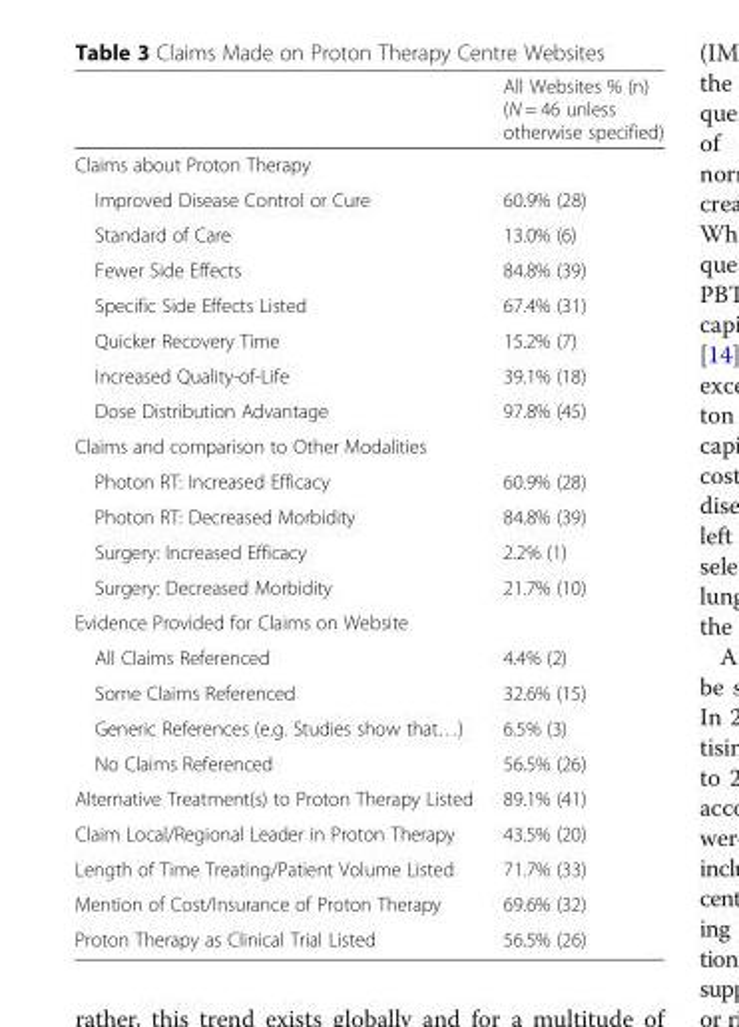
<table><thead><tr><td></td><td>All Websites % (n) (N = 46 unless otherwise specified)</td></tr></thead><tbody><tr><td colspan="2">Claims about Proton Therapy</td></tr><tr><td>Improved Disease Control or Cure</td><td>60.9% (28)</td></tr><tr><td>Standard of Care</td><td>13.0% (6)</td></tr><tr><td>Fewer Side Effects</td><td>84.8% (39)</td></tr><tr><td>Specific Side Effects Listed</td><td>67.4% (31)</td></tr><tr><td>Quicker Recovery Time</td><td>15.2% (7)</td></tr><tr><td>Increased Quality-of-Life</td><td>39.1% (18)</td></tr><tr><td>Dose Distribution Advantage</td><td>97.8% (45)</td></tr><tr><td colspan="2">Claims and comparison to Other Modalities</td></tr><tr><td>Photon RT: Increased Efficacy</td><td>60.9% (28)</td></tr><tr><td>Photon RT: Decreased Morbidity</td><td>84.8% (39)</td></tr><tr><td>Surgery: Increased Efficacy</td><td>2.2% (1)</td></tr><tr><td>Surgery: Decreased Morbidity</td><td>21.7% (10)</td></tr><tr><td colspan="2">Evidence Provided for Claims on Website</td></tr><tr><td>All Claims Referenced</td><td>4.4% (2)</td></tr><tr><td>Some Claims Referenced</td><td>32.6% (15)</td></tr><tr><td>Generic References (e.g. Studies show that…)</td><td>6.5% (3)</td></tr><tr><td>No Claims Referenced</td><td>56.5% (26)</td></tr><tr><td>Alternative Treatment(s) to Proton Therapy Listed</td><td>89.1% (41)</td></tr><tr><td>Claim Local/Regional Leader in Proton Therapy</td><td>43.5% (20)</td></tr><tr><td>Length of Time Treating/Patient Volume Listed</td><td>71.7% (33)</td></tr><tr><td>Mention of Cost/Insurance of Proton Therapy</td><td>69.6% (32)</td></tr><tr><td>Proton Therapy as Clinical Trial Listed</td><td>56.5% (26)</td></tr></tbody></table>